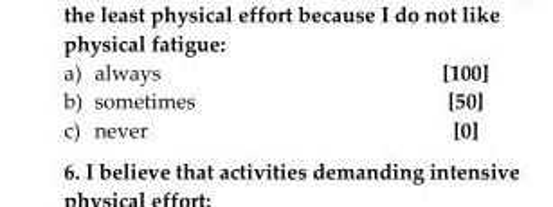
<table><tbody><tr><td>a) always</td><td>[100]</td></tr><tr><td>b) sometimes</td><td>[50]</td></tr><tr><td>c) never</td><td>[0]</td></tr></tbody></table>